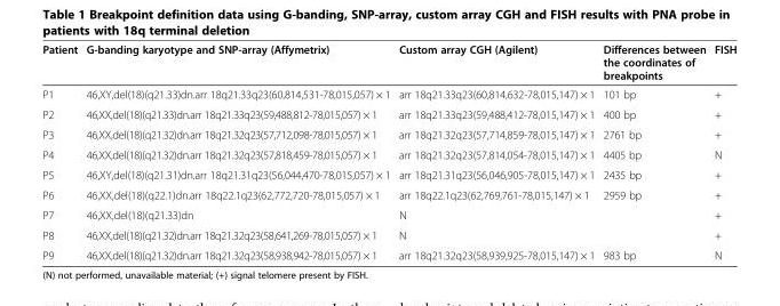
<table><thead><tr><td>Patient</td><td>G-banding karyotype and SNP-array (Affymetrix)</td><td>Custom array CGH (Agilent)</td><td>Differences between the coordinates of breakpoints</td><td>FISH</td></tr></thead><tbody><tr><td>P1</td><td>46,XY,del(18)(q21.33)dn.arr 18q21.33q23(60,814,531-78,015,057) × 1</td><td>arr 18q21.33q23(60,814,632-78,015,147) × 1</td><td>101 bp</td><td>+</td></tr><tr><td>P2</td><td>46,XX,del(18)(q21.33)dn.arr 18q21.33q23(59,488,812-78,015,057) × 1</td><td>arr 18q21.33q23(59,488,412-78,015,147) × 1</td><td>400 bp</td><td>+</td></tr><tr><td>P3</td><td>46,XX,del(18)(q21.32)dn.arr 18q21.32q23(57,712,098-78,015,057) × 1</td><td>arr 18q21.32q23(57,714,859-78,015,147) × 1</td><td>2761 bp</td><td>+</td></tr><tr><td>P4</td><td>46,XX,del(18)(q21.32)dn.arr 18q21.32q23(57,818,459-78,015,057) × 1</td><td>arr 18q21.32q23(57,814,054-78,015,147) × 1</td><td>4405 bp</td><td>N</td></tr><tr><td>P5</td><td>46,XY,del(18)(q21.31)dn.arr 18q21.31q23(56,044,470-78,015,057) × 1</td><td>arr 18q21.31q23(56,046,905-78,015,147) × 1</td><td>2435 bp</td><td>+</td></tr><tr><td>P6</td><td>46,XX,del(18)(q22.1)dn.arr 18q22.1q23(62,772,720-78,015,057) × 1</td><td>arr 18q22.1q23(62,769,761-78,015,147) × 1</td><td>2959 bp</td><td>+</td></tr><tr><td>P7</td><td>46,XX,del(18)(q21.33)dn</td><td>N</td><td></td><td>+</td></tr><tr><td>P8</td><td>46,XX,del(18)(q21.32)dn.arr 18q21.32q23(58,641,269-78,015,057) × 1</td><td>N</td><td></td><td>+</td></tr><tr><td>P9</td><td>46,XX,del(18)(q21.32)dn.arr 18q21.32q23(58,938,942-78,015,057) × 1</td><td>arr 18q21.32q23(58,939,925-78,015,147) × 1</td><td>983 bp</td><td>N</td></tr></tbody></table>